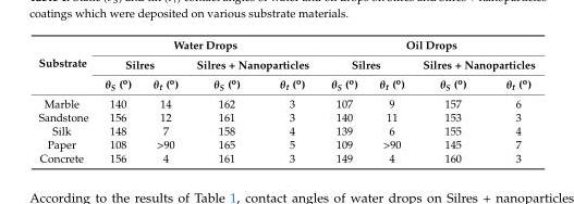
<table><thead><tr><td rowspan="3">Substrate</td><td colspan="4">Water Drops</td><td colspan="4">Oil Drops</td></tr><tr><td colspan="2">Silres</td><td colspan="2">Silres + Nanoparticles</td><td colspan="2">Silres</td><td colspan="2">Silres + Nanoparticles</td></tr><tr><td>θ<sub>S</sub> (<sup>o</sup>)</td><td>θ<sub>t</sub> (<sup>o</sup>)</td><td>θ<sub>S</sub> (<sup>o</sup>)</td><td>θ<sub>t</sub> (<sup>o</sup>)</td><td>θ<sub>S</sub> (<sup>o</sup>)</td><td>θ<sub>t</sub> (<sup>o</sup>)</td><td>θ<sub>S</sub> (<sup>o</sup>)</td><td>θ<sub>t</sub> (<sup>o</sup>)</td></tr></thead><tbody><tr><td>Marble</td><td>140</td><td>14</td><td>162</td><td>3</td><td>107</td><td>9</td><td>157</td><td>6</td></tr><tr><td>Sandstone</td><td>156</td><td>12</td><td>161</td><td>3</td><td>140</td><td>11</td><td>153</td><td>3</td></tr><tr><td>Silk</td><td>148</td><td>7</td><td>158</td><td>4</td><td>139</td><td>6</td><td>155</td><td>4</td></tr><tr><td>Paper</td><td>108</td><td>&gt;90</td><td>165</td><td>5</td><td>109</td><td>&gt;90</td><td>145</td><td>7</td></tr><tr><td>Concrete</td><td>156</td><td>4</td><td>161</td><td>3</td><td>149</td><td>4</td><td>160</td><td>3</td></tr></tbody></table>